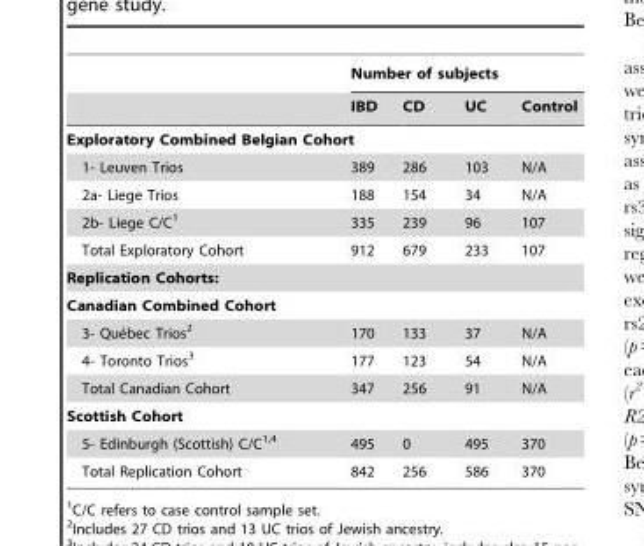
<table><thead><tr><td rowspan="2"></td><td colspan="4">Number of subjects</td></tr><tr><td>IBD</td><td>CD</td><td>UC</td><td>Control</td></tr></thead><tbody><tr><td colspan="5">Exploratory Combined Belgian Cohort</td></tr><tr><td>1- Leuven Trios</td><td>389</td><td>286</td><td>103</td><td>N/A</td></tr><tr><td>2a- Liege Trios</td><td>188</td><td>154</td><td>34</td><td>N/A</td></tr><tr><td>2b- Liege C/C<sup>1</sup></td><td>335</td><td>239</td><td>96</td><td>107</td></tr><tr><td>Total Exploratory Cohort</td><td>912</td><td>679</td><td>233</td><td>107</td></tr><tr><td colspan="5">Replication Cohorts:</td></tr><tr><td colspan="5">Canadian Combined Cohort</td></tr><tr><td>3- Que´bec Trios2</td><td>170</td><td>133</td><td>37</td><td>N/A</td></tr><tr><td>4- Toronto Trios<sup>3</sup></td><td>177</td><td>123</td><td>54</td><td>N/A</td></tr><tr><td>Total Canadian Cohort</td><td>347</td><td>256</td><td>91</td><td>N/A</td></tr><tr><td colspan="5">Scottish Cohort</td></tr><tr><td>5- Edinburgh (Scottish) C/C<sup>1,4</sup></td><td>495</td><td>0</td><td>495</td><td>370</td></tr><tr><td>Total Replication Cohort</td><td>842</td><td>256</td><td>586</td><td>370</td></tr></tbody></table>